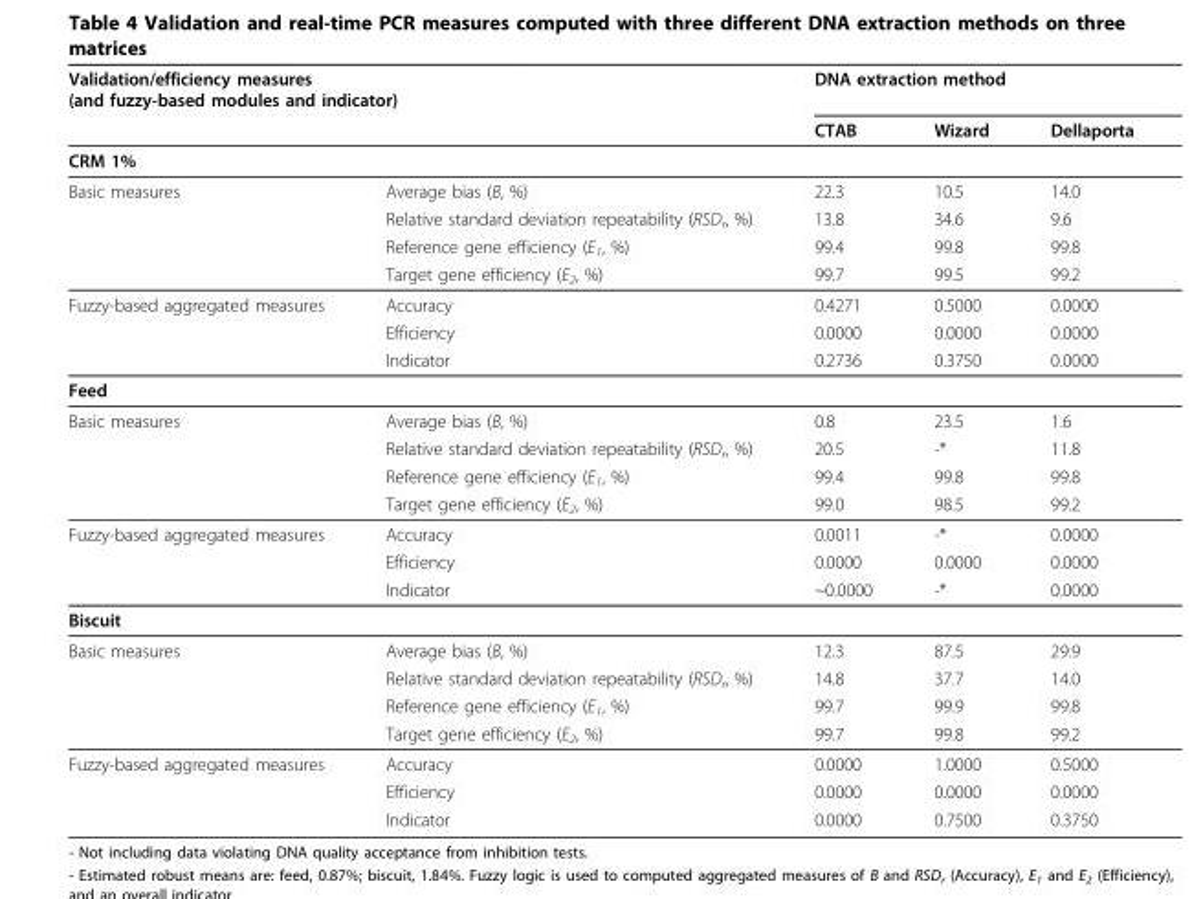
<table><thead><tr><td colspan="2">Validation/efficiency measures (and fuzzy-based modules and indicator)</td><td colspan="3">DNA extraction method</td></tr><tr><td></td><td></td><td>CTAB</td><td>Wizard</td><td>Dellaporta</td></tr></thead><tbody><tr><td colspan="5">CRM 1%</td></tr><tr><td rowspan="4">Basic measures</td><td>Average bias (B, %)</td><td>22.3</td><td>10.5</td><td>14.0</td></tr><tr><td>Relative standard deviation repeatability (RSD<sub>r</sub>, %)</td><td>13.8</td><td>34.6</td><td>9.6</td></tr><tr><td>Reference gene efficiency (E<sub>1</sub>, %)</td><td>99.4</td><td>99.8</td><td>99.8</td></tr><tr><td>Target gene efficiency (E<sub>2</sub>, %)</td><td>99.7</td><td>99.5</td><td>99.2</td></tr><tr><td rowspan="3">Fuzzy-based aggregated measures</td><td>Accuracy</td><td>0.4271</td><td>0.5000</td><td>0.0000</td></tr><tr><td>Efficiency</td><td>0.0000</td><td>0.0000</td><td>0.0000</td></tr><tr><td>Indicator</td><td>0.2736</td><td>0.3750</td><td>0.0000</td></tr><tr><td colspan="5">Feed</td></tr><tr><td rowspan="4">Basic measures</td><td>Average bias (B, %)</td><td>0.8</td><td>23.5</td><td>1.6</td></tr><tr><td>Relative standard deviation repeatability (RSD<sub>r</sub>, %)</td><td>20.5</td><td>-*</td><td>11.8</td></tr><tr><td>Reference gene efficiency (E<sub>1</sub>, %)</td><td>99.4</td><td>99.8</td><td>99.8</td></tr><tr><td>Target gene efficiency (E<sub>2</sub>, %)</td><td>99.0</td><td>98.5</td><td>99.2</td></tr><tr><td rowspan="3">Fuzzy-based aggregated measures</td><td>Accuracy</td><td>0.0011</td><td>-*</td><td>0.0000</td></tr><tr><td>Efficiency</td><td>0.0000</td><td>0.0000</td><td>0.0000</td></tr><tr><td>Indicator</td><td>~0.0000</td><td>-*</td><td>0.0000</td></tr><tr><td colspan="5">Biscuit</td></tr><tr><td rowspan="4">Basic measures</td><td>Average bias (B, %)</td><td>12.3</td><td>87.5</td><td>29.9</td></tr><tr><td>Relative standard deviation repeatability (RSD<sub>r</sub>, %)</td><td>14.8</td><td>37.7</td><td>14.0</td></tr><tr><td>Reference gene efficiency (E<sub>1</sub>, %)</td><td>99.7</td><td>99.9</td><td>99.8</td></tr><tr><td>Target gene efficiency (E<sub>2</sub>, %)</td><td>99.7</td><td>99.8</td><td>99.2</td></tr><tr><td rowspan="3">Fuzzy-based aggregated measures</td><td>Accuracy</td><td>0.0000</td><td>1.0000</td><td>0.5000</td></tr><tr><td>Efficiency</td><td>0.0000</td><td>0.0000</td><td>0.0000</td></tr><tr><td>Indicator</td><td>0.0000</td><td>0.7500</td><td>0.3750</td></tr></tbody></table>